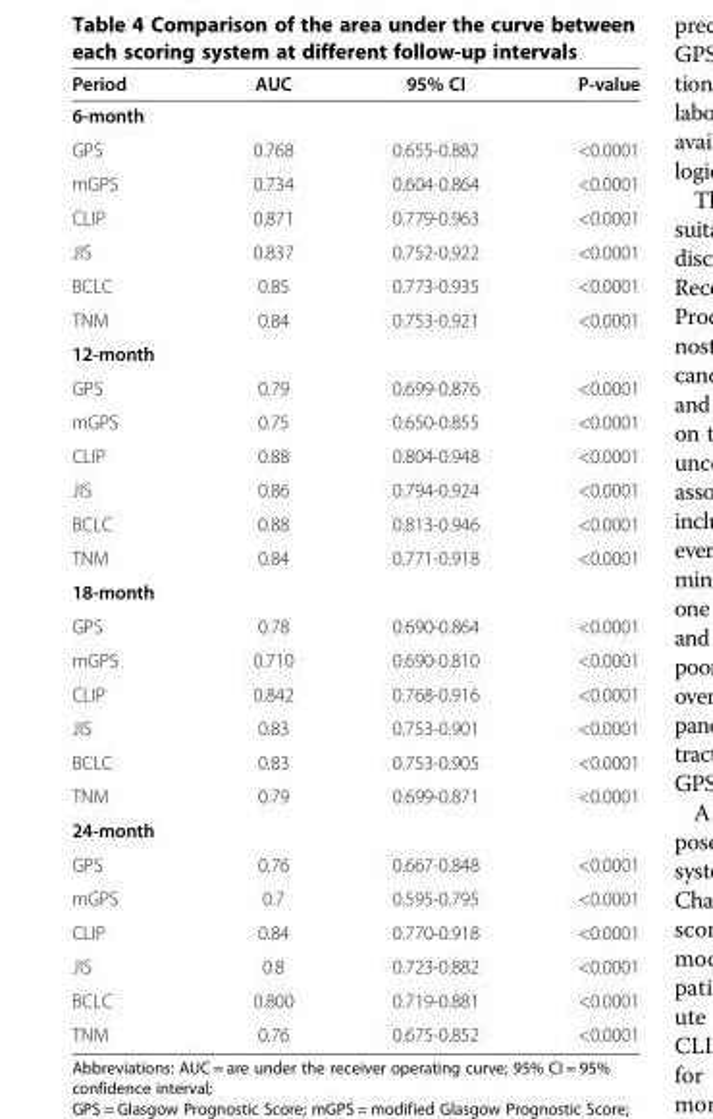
<table><thead><tr><td>Period</td><td>AUC</td><td>95% CI</td><td>P-value</td></tr></thead><tbody><tr><td colspan="4">6-month</td></tr><tr><td>GPS</td><td>0.768</td><td>0.655-0.882</td><td>&lt;0.0001</td></tr><tr><td>mGPS</td><td>0.734</td><td>0.604-0.864</td><td>&lt;0.0001</td></tr><tr><td>CLIP</td><td>0.871</td><td>0.779-0.963</td><td>&lt;0.0001</td></tr><tr><td>JIS</td><td>0.837</td><td>0.752-0.922</td><td>&lt;0.0001</td></tr><tr><td>BCLC</td><td>0.85</td><td>0.773-0.935</td><td>&lt;0.0001</td></tr><tr><td>TNM</td><td>0.84</td><td>0.753-0.921</td><td>&lt;0.0001</td></tr><tr><td colspan="4">12-month</td></tr><tr><td>GPS</td><td>0.79</td><td>0.699-0.876</td><td>&lt;0.0001</td></tr><tr><td>mGPS</td><td>0.75</td><td>0.650-0.855</td><td>&lt;0.0001</td></tr><tr><td>CLIP</td><td>0.88</td><td>0.804-0.948</td><td>&lt;0.0001</td></tr><tr><td>JIS</td><td>0.86</td><td>0.794-0.924</td><td>&lt;0.0001</td></tr><tr><td>BCLC</td><td>0.88</td><td>0.813-0.946</td><td>&lt;0.0001</td></tr><tr><td>TNM</td><td>0.84</td><td>0.771-0.918</td><td>&lt;0.0001</td></tr><tr><td colspan="4">18-month</td></tr><tr><td>GPS</td><td>0.78</td><td>0.690-0.864</td><td>&lt;0.0001</td></tr><tr><td>mGPS</td><td>0.710</td><td>0.690-0.810</td><td>&lt;0.0001</td></tr><tr><td>CLIP</td><td>0.842</td><td>0.768-0.916</td><td>&lt;0.0001</td></tr><tr><td>JIS</td><td>0.83</td><td>0.753-0.901</td><td>&lt;0.0001</td></tr><tr><td>BCLC</td><td>0.83</td><td>0.753-0.905</td><td>&lt;0.0001</td></tr><tr><td>TNM</td><td>0.79</td><td>0.699-0.871</td><td>&lt;0.0001</td></tr><tr><td colspan="4">24-month</td></tr><tr><td>GPS</td><td>0.76</td><td>0.667-0.848</td><td>&lt;0.0001</td></tr><tr><td>mGPS</td><td>0.7</td><td>0.595-0.795</td><td>&lt;0.0001</td></tr><tr><td>CLIP</td><td>0.84</td><td>0.770-0.918</td><td>&lt;0.0001</td></tr><tr><td>JIS</td><td>0.8</td><td>0.723-0.882</td><td>&lt;0.0001</td></tr><tr><td>BCLC</td><td>0.800</td><td>0.719-0.881</td><td>&lt;0.0001</td></tr><tr><td>TNM</td><td>0.76</td><td>0.675-0.852</td><td>&lt;0.0001</td></tr></tbody></table>